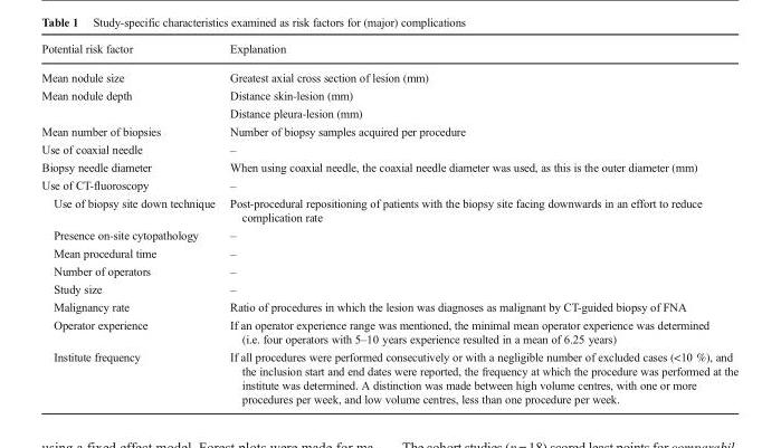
<table><thead><tr><td>Potential risk factor</td><td>Explanation</td></tr></thead><tbody><tr><td>Mean nodule size</td><td>Greatest axial cross section of lesion (mm)</td></tr><tr><td rowspan="2">Mean nodule depth</td><td>Distance skin-lesion (mm)</td></tr><tr><td>Distance pleura-lesion (mm)</td></tr><tr><td>Mean number of biopsies</td><td>Number of biopsy samples acquired per procedure</td></tr><tr><td>Use of coaxial needle</td><td>–</td></tr><tr><td>Biopsy needle diameter</td><td>When using coaxial needle, the coaxial needle diameter was used, as this is the outer diameter (mm)</td></tr><tr><td>Use of CT-fluoroscopy</td><td>–</td></tr><tr><td>Use of biopsy site down technique</td><td>Post-procedural repositioning of patients with the biopsy site facing downwards in an effort to reduce complication rate</td></tr><tr><td>Presence on-site cytopathology</td><td>–</td></tr><tr><td>Mean procedural time</td><td>–</td></tr><tr><td>Number of operators</td><td>–</td></tr><tr><td>Study size</td><td>–</td></tr><tr><td>Malignancy rate</td><td>Ratio of procedures in which the lesion was diagnoses as malignant by CT-guided biopsy of FNA</td></tr><tr><td>Operator experience</td><td>If an operator experience range was mentioned, the minimal mean operator experience was determined (i.e. four operators with 5–10 years experience resulted in a mean of 6.25 years)</td></tr><tr><td>Institute frequency</td><td>If all procedures were performed consecutively or with a negligible number of excluded cases (&lt;10 %), and the inclusion start and end dates were reported, the frequency at which the procedure was performed at the institute was determined. A distinction was made between high volume centres, with one or more procedures per week, and low volume centres, less than one procedure per week.</td></tr></tbody></table>